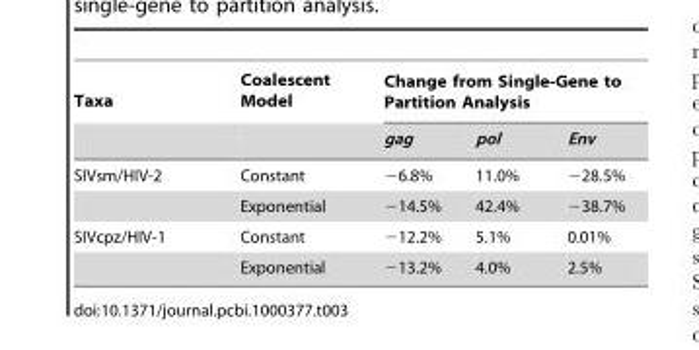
<table><thead><tr><td rowspan="2">Taxa</td><td rowspan="2">Coalescent Model</td><td colspan="3">Change from Single-Gene to Partition Analysis</td></tr><tr><td>gag</td><td>pol</td><td>Env</td></tr></thead><tbody><tr><td rowspan="2">SIVsm/HIV-2</td><td>Constant</td><td>−6.8%</td><td>11.0%</td><td>−28.5%</td></tr><tr><td>Exponential</td><td>−14.5%</td><td>42.4%</td><td>−38.7%</td></tr><tr><td rowspan="2">SIVcpz/HIV-1</td><td>Constant</td><td>−12.2%</td><td>5.1%</td><td>0.01%</td></tr><tr><td>Exponential</td><td>−13.2%</td><td>4.0%</td><td>2.5%</td></tr></tbody></table>